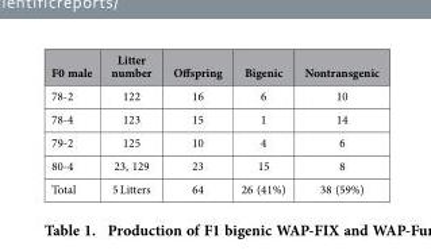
<table><thead><tr><td>F0 male</td><td>Litter number</td><td>Offspring</td><td>Bigenic</td><td>Nontransgenic</td></tr></thead><tbody><tr><td>78-2</td><td>122</td><td>16</td><td>6</td><td>10</td></tr><tr><td>78-4</td><td>123</td><td>15</td><td>1</td><td>14</td></tr><tr><td>79-2</td><td>125</td><td>10</td><td>4</td><td>6</td></tr><tr><td>80-4</td><td>23, 129</td><td>23</td><td>15</td><td>8</td></tr><tr><td>Total</td><td>5 Litters</td><td>64</td><td>26 (41%)</td><td>38 (59%)</td></tr></tbody></table>